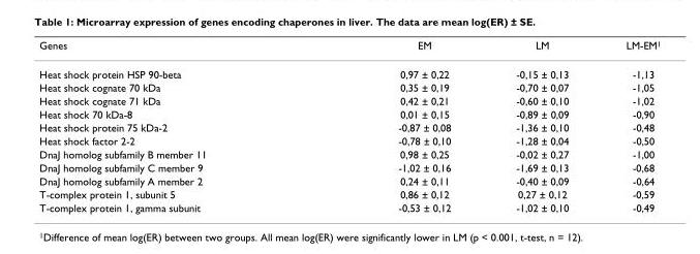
<table><thead><tr><td>Genes</td><td>EM</td><td>LM</td><td>LM-EM<sup>1</sup></td></tr></thead><tbody><tr><td>Heat shock protein HSP 90-beta</td><td>0,97 ± 0,22</td><td>-0,15 ± 0,13</td><td>-1,13</td></tr><tr><td>Heat shock cognate 70 kDa</td><td>0,35 ± 0,19</td><td>-0,70 ± 0,07</td><td>-1,05</td></tr><tr><td>Heat shock cognate 71 kDa</td><td>0,42 ± 0,21</td><td>-0,60 ± 0,10</td><td>-1,02</td></tr><tr><td>Heat shock 70 kDa-8</td><td>0,01 ± 0,15</td><td>-0,89 ± 0,09</td><td>-0,90</td></tr><tr><td>Heat shock protein 75 kDa-2</td><td>-0,87 ± 0,08</td><td>-1,36 ± 0,10</td><td>-0,48</td></tr><tr><td>Heat shock factor 2-2</td><td>-0,78 ± 0,10</td><td>-1,28 ± 0,04</td><td>-0,50</td></tr><tr><td>DnaJ homolog subfamily B member 11</td><td>0,98 ± 0,25</td><td>-0,02 ± 0,27</td><td>-1,00</td></tr><tr><td>DnaJ homolog subfamily C member 9</td><td>-1,02 ± 0,16</td><td>-1,69 ± 0,13</td><td>-0,68</td></tr><tr><td>DnaJ homolog subfamily A member 2</td><td>0,24 ± 0,11</td><td>-0,40 ± 0,09</td><td>-0,64</td></tr><tr><td>T-complex protein 1, subunit 5</td><td>0,86 ± 0,12</td><td>0,27 ± 0,12</td><td>-0,59</td></tr><tr><td>T-complex protein 1, gamma subunit</td><td>-0,53 ± 0,12</td><td>-1,02 ± 0,10</td><td>-0,49</td></tr></tbody></table>